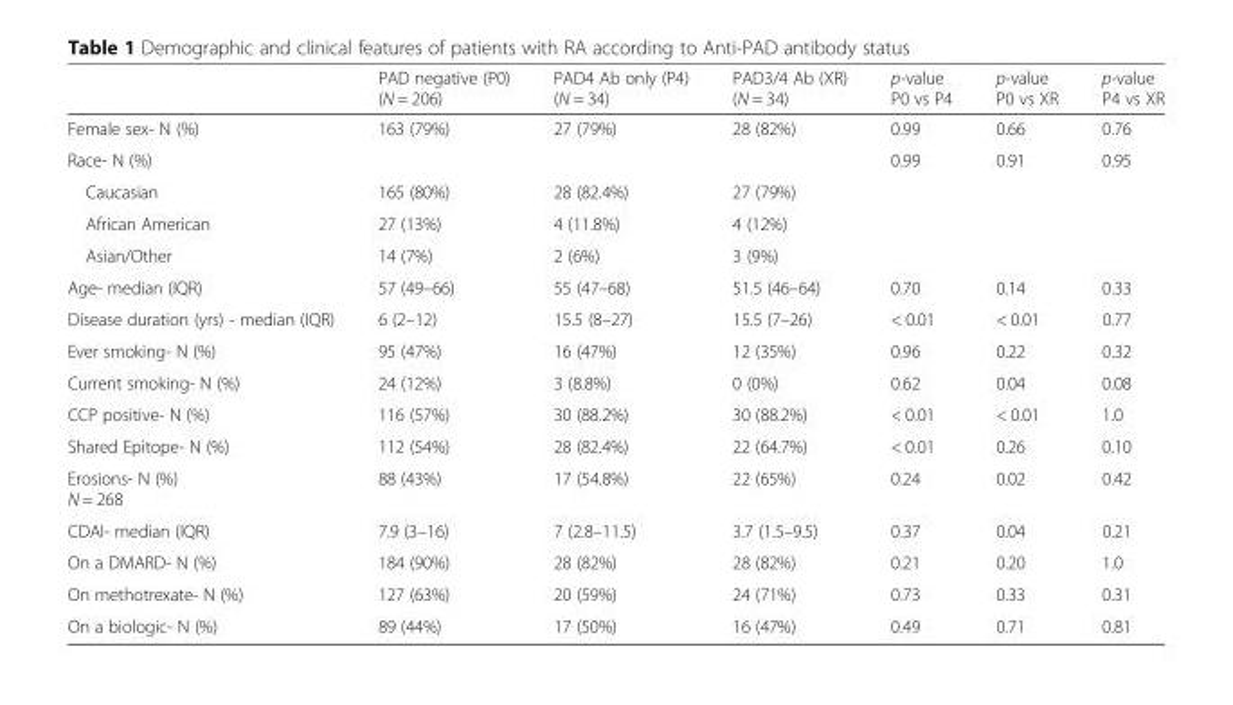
<table><thead><tr><td></td><td>PAD negative (P0) (N = 206)</td><td>PAD4 Ab only (P4) (N = 34)</td><td>PAD3/4 Ab (XR) (N = 34)</td><td>p-value P0 vs P4</td><td>p-value P0 vs XR</td><td>p-value P4 vs XR</td></tr></thead><tbody><tr><td>Female sex- N (%)</td><td>163 (79%)</td><td>27 (79%)</td><td>28 (82%)</td><td>0.99</td><td>0.66</td><td>0.76</td></tr><tr><td>Race- N (%)</td><td></td><td></td><td></td><td>0.99</td><td>0.91</td><td>0.95</td></tr><tr><td>Caucasian</td><td>165 (80%)</td><td>28 (82.4%)</td><td>27 (79%)</td><td></td><td></td><td></td></tr><tr><td>African American</td><td>27 (13%)</td><td>4 (11.8%)</td><td>4 (12%)</td><td></td><td></td><td></td></tr><tr><td>Asian/Other</td><td>14 (7%)</td><td>2 (6%)</td><td>3 (9%)</td><td></td><td></td><td></td></tr><tr><td>Age- median (IQR)</td><td>57 (49–66)</td><td>55 (47–68)</td><td>51.5 (46–64)</td><td>0.70</td><td>0.14</td><td>0.33</td></tr><tr><td>Disease duration (yrs) - median (IQR)</td><td>6 (2–12)</td><td>15.5 (8–27)</td><td>15.5 (7–26)</td><td>&lt; 0.01</td><td>&lt; 0.01</td><td>0.77</td></tr><tr><td>Ever smoking- N (%)</td><td>95 (47%)</td><td>16 (47%)</td><td>12 (35%)</td><td>0.96</td><td>0.22</td><td>0.32</td></tr><tr><td>Current smoking- N (%)</td><td>24 (12%)</td><td>3 (8.8%)</td><td>0 (0%)</td><td>0.62</td><td>0.04</td><td>0.08</td></tr><tr><td>CCP positive- N (%)</td><td>116 (57%)</td><td>30 (88.2%)</td><td>30 (88.2%)</td><td>&lt; 0.01</td><td>&lt; 0.01</td><td>1.0</td></tr><tr><td>Shared Epitope- N (%)</td><td>112 (54%)</td><td>28 (82.4%)</td><td>22 (64.7%)</td><td>&lt; 0.01</td><td>0.26</td><td>0.10</td></tr><tr><td>Erosions- N (%) N = 268</td><td>88 (43%)</td><td>17 (54.8%)</td><td>22 (65%)</td><td>0.24</td><td>0.02</td><td>0.42</td></tr><tr><td>CDAI- median (IQR)</td><td>7.9 (3–16)</td><td>7 (2.8–11.5)</td><td>3.7 (1.5–9.5)</td><td>0.37</td><td>0.04</td><td>0.21</td></tr><tr><td>On a DMARD- N (%)</td><td>184 (90%)</td><td>28 (82%)</td><td>28 (82%)</td><td>0.21</td><td>0.20</td><td>1.0</td></tr><tr><td>On methotrexate- N (%)</td><td>127 (63%)</td><td>20 (59%)</td><td>24 (71%)</td><td>0.73</td><td>0.33</td><td>0.31</td></tr><tr><td>On a biologic- N (%)</td><td>89 (44%)</td><td>17 (50%)</td><td>16 (47%)</td><td>0.49</td><td>0.71</td><td>0.81</td></tr></tbody></table>